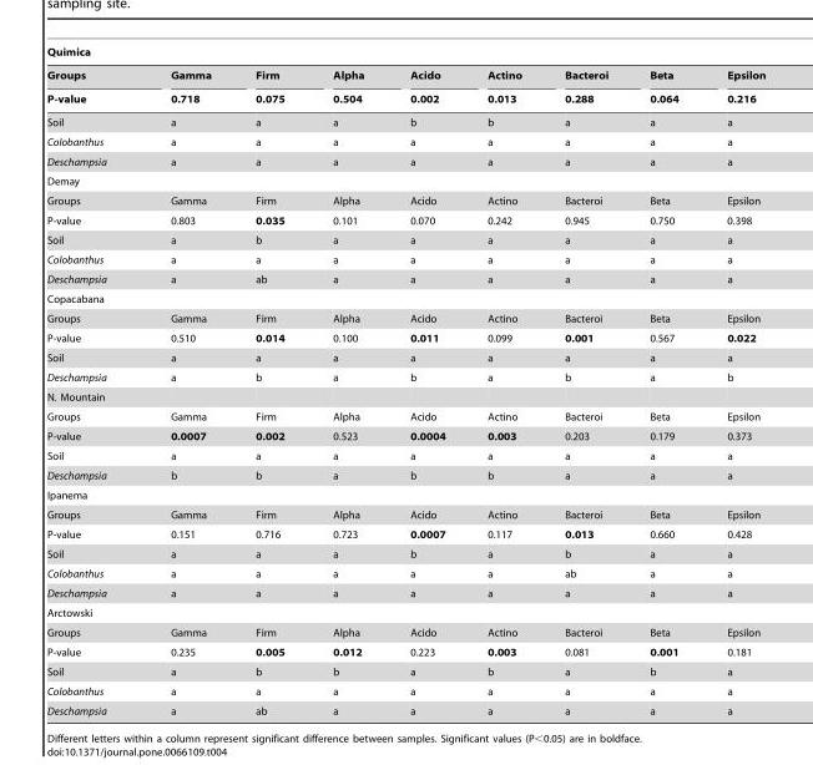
<table><thead><tr><td colspan="9">Quimica</td></tr><tr><td rowspan="2">Groups P-value</td><td rowspan="2">Gamma 0.718</td><td rowspan="2">Firm 0.075</td><td rowspan="2">Alpha 0.504</td><td rowspan="2">Acido 0.002</td><td rowspan="2">Actino 0.013</td><td rowspan="2">Bacteroi 0.288</td><td rowspan="2">Beta 0.064</td><td rowspan="2">Epsilon 0.216</td></tr><tr></tr></thead><tbody><tr><td>Soil</td><td>a</td><td>a</td><td>a</td><td>b</td><td>b</td><td>a</td><td>a</td><td>a</td></tr><tr><td>Colobanthus</td><td>a</td><td>a</td><td>a</td><td>a</td><td>a</td><td>a</td><td>a</td><td>a</td></tr><tr><td>Deschampsia</td><td>a</td><td>a</td><td>a</td><td>a</td><td>a</td><td>a</td><td>a</td><td>a</td></tr><tr><td colspan="9">Demay</td></tr><tr><td>Groups</td><td>Gamma</td><td>Firm</td><td>Alpha</td><td>Acido</td><td>Actino</td><td>Bacteroi</td><td>Beta</td><td>Epsilon</td></tr><tr><td>P-value</td><td>0.803</td><td>0.035</td><td>0.101</td><td>0.070</td><td>0.242</td><td>0.945</td><td>0.750</td><td>0.398</td></tr><tr><td>Soil</td><td>a</td><td>b</td><td>a</td><td>a</td><td>a</td><td>a</td><td>a</td><td>a</td></tr><tr><td>Colobanthus</td><td>a</td><td>a</td><td>a</td><td>a</td><td>a</td><td>a</td><td>a</td><td>a</td></tr><tr><td>Deschampsia</td><td>a</td><td>ab</td><td>a</td><td>a</td><td>a</td><td>a</td><td>a</td><td>a</td></tr><tr><td colspan="9">Copacabana</td></tr><tr><td>Groups</td><td>Gamma</td><td>Firm</td><td>Alpha</td><td>Acido</td><td>Actino</td><td>Bacteroi</td><td>Beta</td><td>Epsilon</td></tr><tr><td>P-value</td><td>0.510</td><td>0.014</td><td>0.100</td><td>0.011</td><td>0.099</td><td>0.001</td><td>0.567</td><td>0.022</td></tr><tr><td>Soil</td><td>a</td><td>a</td><td>a</td><td>a</td><td>a</td><td>a</td><td>a</td><td>a</td></tr><tr><td>Deschampsia</td><td>a</td><td>b</td><td>a</td><td>b</td><td>a</td><td>b</td><td>a</td><td>b</td></tr><tr><td colspan="9">N. Mountain</td></tr><tr><td>Groups</td><td>Gamma</td><td>Firm</td><td>Alpha</td><td>Acido</td><td>Actino</td><td>Bacteroi</td><td>Beta</td><td>Epsilon</td></tr><tr><td>P-value</td><td>0.0007</td><td>0.002</td><td>0.523</td><td>0.0004</td><td>0.003</td><td>0.203</td><td>0.179</td><td>0.373</td></tr><tr><td>Soil</td><td>a</td><td>a</td><td>a</td><td>a</td><td>a</td><td>a</td><td>a</td><td>a</td></tr><tr><td>Deschampsia</td><td>b</td><td>b</td><td>a</td><td>b</td><td>b</td><td>a</td><td>a</td><td>a</td></tr><tr><td colspan="9">Ipanema</td></tr><tr><td>Groups</td><td>Gamma</td><td>Firm</td><td>Alpha</td><td>Acido</td><td>Actino</td><td>Bacteroi</td><td>Beta</td><td>Epsilon</td></tr><tr><td>P-value</td><td>0.151</td><td>0.716</td><td>0.723</td><td>0.0007</td><td>0.117</td><td>0.013</td><td>0.660</td><td>0.428</td></tr><tr><td>Soil</td><td>a</td><td>a</td><td>a</td><td>b</td><td>a</td><td>b</td><td>a</td><td>a</td></tr><tr><td>Colobanthus</td><td>a</td><td>a</td><td>a</td><td>a</td><td>a</td><td>ab</td><td>a</td><td>a</td></tr><tr><td>Deschampsia</td><td>a</td><td>a</td><td>a</td><td>a</td><td>a</td><td>a</td><td>a</td><td>a</td></tr><tr><td colspan="9">Arctowski</td></tr><tr><td>Groups</td><td>Gamma</td><td>Firm</td><td>Alpha</td><td>Acido</td><td>Actino</td><td>Bacteroi</td><td>Beta</td><td>Epsilon</td></tr><tr><td>P-value</td><td>0.235</td><td>0.005</td><td>0.012</td><td>0.223</td><td>0.003</td><td>0.081</td><td>0.001</td><td>0.181</td></tr><tr><td>Soil</td><td>a</td><td>b</td><td>b</td><td>a</td><td>b</td><td>a</td><td>b</td><td>a</td></tr><tr><td>Colobanthus</td><td>a</td><td>a</td><td>a</td><td>a</td><td>a</td><td>a</td><td>a</td><td>a</td></tr><tr><td>Deschampsia</td><td>a</td><td>ab</td><td>a</td><td>a</td><td>a</td><td>a</td><td>a</td><td>a</td></tr></tbody></table>